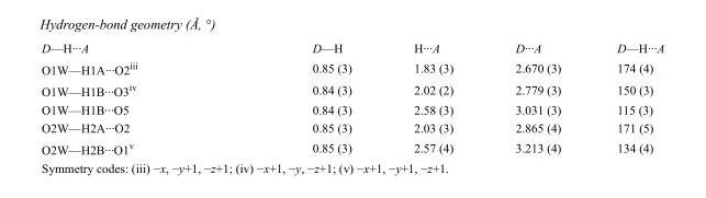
<table><tbody><tr><td>D—H···A</td><td>D—H</td><td>H···A</td><td>D···A</td><td>D—H···A</td></tr><tr><td>O1W—H1A···O2<sup>iii</sup></td><td>0.85 (3)</td><td>1.83 (3)</td><td>2.670 (3)</td><td>174 (4)</td></tr><tr><td>O1W—H1B···O3<sup>iv</sup></td><td>0.84 (3)</td><td>2.02 (2)</td><td>2.779 (3)</td><td>150 (3)</td></tr><tr><td>O1W—H1B···O5</td><td>0.84 (3)</td><td>2.58 (3)</td><td>3.031 (3)</td><td>115 (3)</td></tr><tr><td>O2W—H2A···O2</td><td>0.85 (3)</td><td>2.03 (3)</td><td>2.865 (4)</td><td>171 (5)</td></tr><tr><td>O2W—H2B···O1<sup>v</sup></td><td>0.85 (3)</td><td>2.57 (4)</td><td>3.213 (4)</td><td>134 (4)</td></tr></tbody></table>